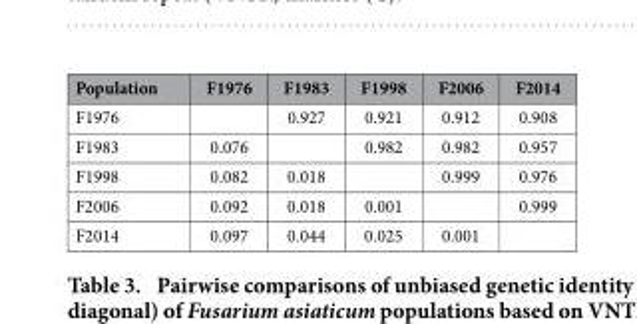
<table><thead><tr><td>Population</td><td>F1976</td><td>F1983</td><td>F1998</td><td>F2006</td><td>F2014</td></tr></thead><tbody><tr><td>F1976</td><td></td><td>0.927</td><td>0.921</td><td>0.912</td><td>0.908</td></tr><tr><td>F1983</td><td>0.076</td><td></td><td>0.982</td><td>0.982</td><td>0.957</td></tr><tr><td>F1998</td><td>0.082</td><td>0.018</td><td></td><td>0.999</td><td>0.976</td></tr><tr><td>F2006</td><td>0.092</td><td>0.018</td><td>0.001</td><td></td><td>0.999</td></tr><tr><td>F2014</td><td>0.097</td><td>0.044</td><td>0.025</td><td>0.001</td><td></td></tr></tbody></table>